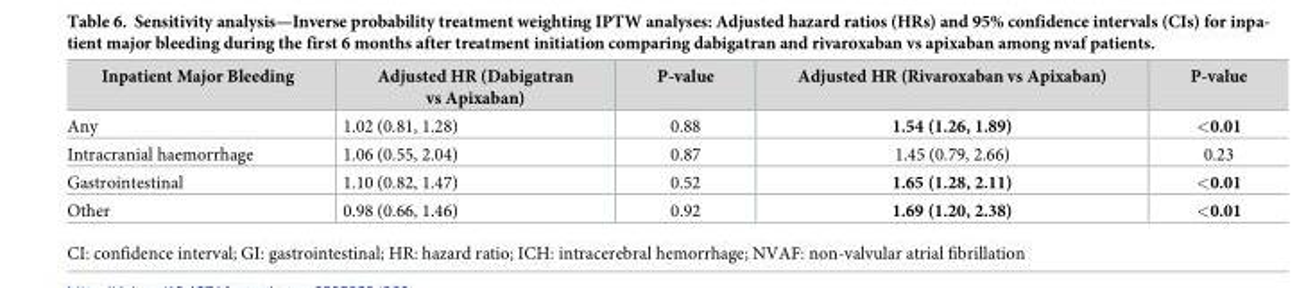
<table><thead><tr><td>Inpatient Major Bleeding</td><td>Adjusted HR (Dabigatran vs Apixaban)</td><td>P-value</td><td>Adjusted HR (Rivaroxaban vs Apixaban)</td><td>P-value</td></tr></thead><tbody><tr><td>Any</td><td>1.02 (0.81, 1.28)</td><td>0.88</td><td>1.54 (1.26, 1.89)</td><td>&lt;0.01</td></tr><tr><td>Intracranial haemorrhage</td><td>1.06 (0.55, 2.04)</td><td>0.87</td><td>1.45 (0.79, 2.66)</td><td>0.23</td></tr><tr><td>Gastrointestinal</td><td>1.10 (0.82, 1.47)</td><td>0.52</td><td>1.65 (1.28, 2.11)</td><td>&lt;0.01</td></tr><tr><td>Other</td><td>0.98 (0.66, 1.46)</td><td>0.92</td><td>1.69 (1.20, 2.38)</td><td>&lt;0.01</td></tr></tbody></table>